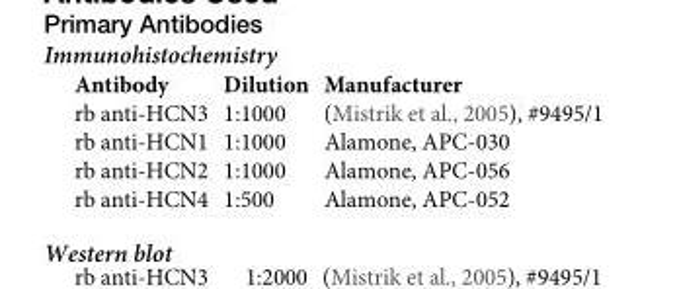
<table><tbody><tr><td>Antibody</td><td>Dilution</td><td>Manufacturer</td></tr><tr><td>rb anti-HCN3</td><td>1:1000</td><td>(Mistrik et al., 2005), #9495/1</td></tr><tr><td>rb anti-HCN1</td><td>1:1000</td><td>Alamone, APC-030</td></tr><tr><td>rb anti-HCN2</td><td>1:1000</td><td>Alamone, APC-056</td></tr><tr><td>rb anti-HCN4</td><td>1:500</td><td>Alamone, APC-052</td></tr></tbody></table>